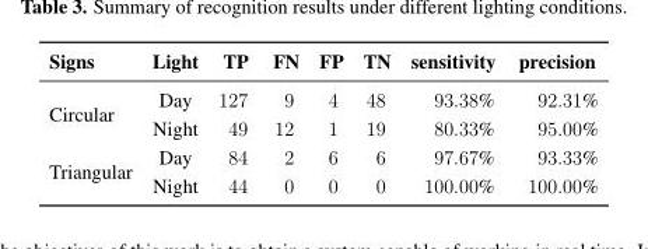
<table><thead><tr><td>Signs</td><td>Light</td><td>TP</td><td>FN</td><td>FP</td><td>TN</td><td>sensitivity</td><td>precision</td></tr></thead><tbody><tr><td rowspan="2">Circular</td><td>Day</td><td>127</td><td>9</td><td>4</td><td>48</td><td>93.38%</td><td>92.31%</td></tr><tr><td>Night</td><td>49</td><td>12</td><td>1</td><td>19</td><td>80.33%</td><td>95.00%</td></tr><tr><td rowspan="2">Triangular</td><td>Day</td><td>84</td><td>2</td><td>6</td><td>6</td><td>97.67%</td><td>93.33%</td></tr><tr><td>Night</td><td>44</td><td>0</td><td>0</td><td>0</td><td>100.00%</td><td>100.00%</td></tr></tbody></table>